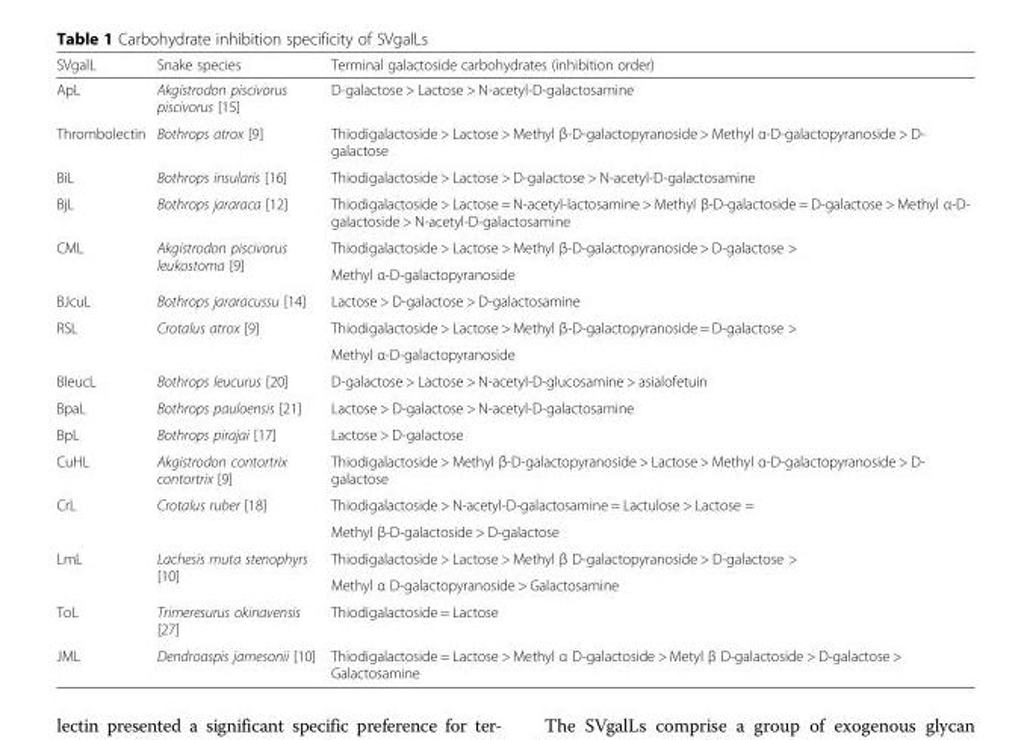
<table><thead><tr><td>SVgalL</td><td>Snake species</td><td>Terminal galactoside carbohydrates (inhibition order)</td></tr></thead><tbody><tr><td>ApL</td><td>Akgistrodon piscivorus piscivorus [15]</td><td>D-galactose &gt; Lactose &gt; N-acetyl-D-galactosamine</td></tr><tr><td>Thrombolectin</td><td>Bothrops atrox [9]</td><td>Thiodigalactoside &gt; Lactose &gt; Methyl β-D-galactopyranoside &gt; Methyl α-D-galactopyranoside &gt; D- galactose</td></tr><tr><td>BiL</td><td>Bothrops insularis [16]</td><td>Thiodigalactoside &gt; Lactose &gt; D-galactose &gt; N-acetyl-D-galactosamine</td></tr><tr><td>BjL</td><td>Bothrops jararaca [12]</td><td>Thiodigalactoside &gt; Lactose = N-acetyl-lactosamine &gt; Methyl β-D-galactoside = D-galactose &gt; Methyl α-D- galactoside &gt; N-acetyl-D-galactosamine</td></tr><tr><td rowspan="2">CML</td><td rowspan="2">Akgistrodon piscivorus leukostoma [9]</td><td>Thiodigalactoside &gt; Lactose &gt; Methyl β-D-galactopyranoside &gt; D-galactose &gt;</td></tr><tr><td>Methyl α-D-galactopyranoside</td></tr><tr><td>BJcuL</td><td>Bothrops jararacussu [14]</td><td>Lactose &gt; D-galactose &gt; D-galactosamine</td></tr><tr><td rowspan="2">RSL</td><td rowspan="2">Crotalus atrox [9]</td><td>Thiodigalactoside &gt; Lactose &gt; Methyl β-D-galactopyranoside = D-galactose &gt;</td></tr><tr><td>Methyl α-D-galactopyranoside</td></tr><tr><td>BleucL</td><td>Bothrops leucurus [20]</td><td>D-galactose &gt; Lactose &gt; N-acetyl-D-glucosamine &gt; asialofetuin</td></tr><tr><td>BpaL</td><td>Bothrops pauloensis [21]</td><td>Lactose &gt; D-galactose &gt; N-acetyl-D-galactosamine</td></tr><tr><td>BpL</td><td>Bothrops pirajai [17]</td><td>Lactose &gt; D-galactose</td></tr><tr><td>CuHL</td><td>Akgistrodon contortrix contortrix [9]</td><td>Thiodigalactoside &gt; Methyl β-D-galactopyranoside &gt; Lactose &gt; Methyl α-D-galactopyranoside &gt; D- galactose</td></tr><tr><td rowspan="2">CrL</td><td rowspan="2">Crotalus ruber [18]</td><td>Thiodigalactoside &gt; N-acetyl-D-galactosamine = Lactulose &gt; Lactose =</td></tr><tr><td>Methyl β-D-galactoside &gt; D-galactose</td></tr><tr><td rowspan="2">LmL</td><td rowspan="2">Lachesis muta stenophyrs [10]</td><td>Thiodigalactoside &gt; Lactose &gt; Methyl β D-galactopyranoside &gt; D-galactose &gt;</td></tr><tr><td>Methyl α D-galactopyranoside &gt; Galactosamine</td></tr><tr><td>ToL</td><td>Trimeresurus okinavensis [27]</td><td>Thiodigalactoside = Lactose</td></tr><tr><td>JML</td><td>Dendroaspis jamesonii [10]</td><td>Thiodigalactoside = Lactose &gt; Methyl α D-galactoside &gt; Metyl β D-galactoside &gt; D-galactose &gt; Galactosamine</td></tr></tbody></table>